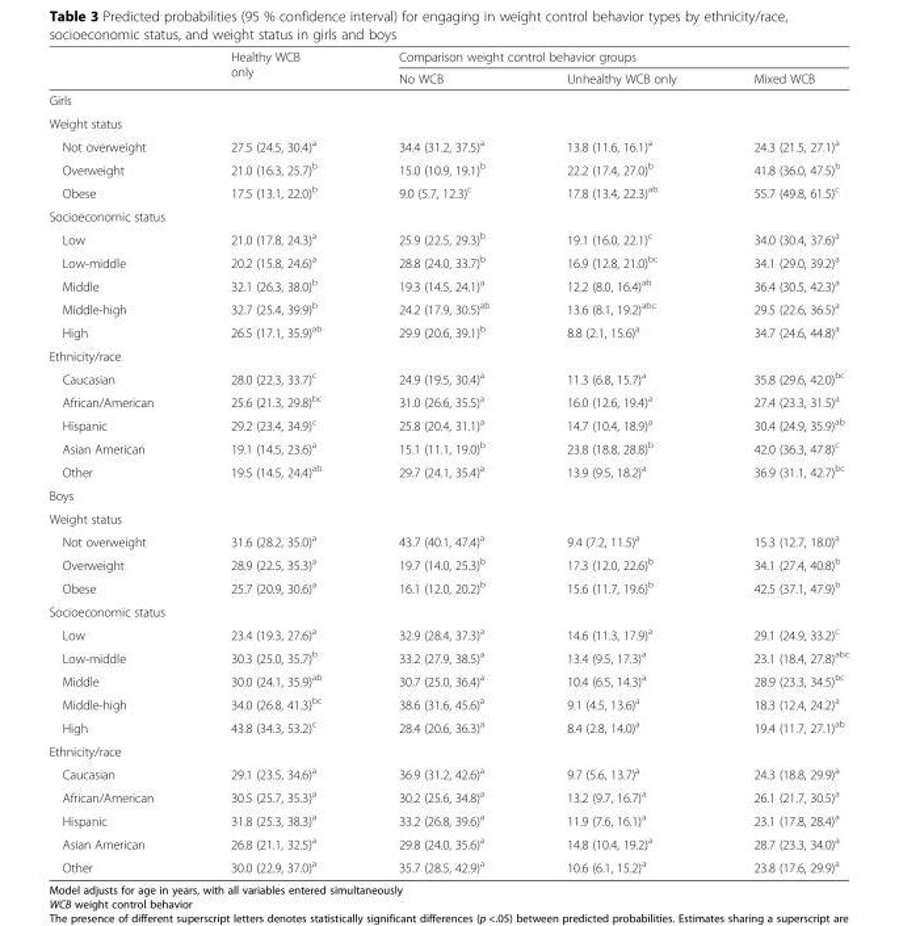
<table><thead><tr><td rowspan="2"></td><td rowspan="2">Healthy WCB only</td><td colspan="3">Comparison weight control behavior groups</td></tr><tr><td>No WCB</td><td>Unhealthy WCB only</td><td>Mixed WCB</td></tr></thead><tbody><tr><td colspan="5">Girls</td></tr><tr><td colspan="5">Weight status</td></tr><tr><td>Not overweight</td><td>27.5 (24.5, 30.4)<sup>a</sup></td><td>34.4 (31.2, 37.5)<sup>a</sup></td><td>13.8 (11.6, 16.1)<sup>a</sup></td><td>24.3 (21.5, 27.1)<sup>a</sup></td></tr><tr><td>Overweight</td><td>21.0 (16.3, 25.7)<sup>b</sup></td><td>15.0 (10.9, 19.1)<sup>b</sup></td><td>22.2 (17.4, 27.0)<sup>b</sup></td><td>41.8 (36.0, 47.5)<sup>b</sup></td></tr><tr><td>Obese</td><td>17.5 (13.1, 22.0)<sup>b</sup></td><td>9.0 (5.7, 12.3)<sup>c</sup></td><td>17.8 (13.4, 22.3)<sup>ab</sup></td><td>55.7 (49.8, 61.5)<sup>c</sup></td></tr><tr><td colspan="5">Socioeconomic status</td></tr><tr><td>Low</td><td>21.0 (17.8, 24.3)<sup>a</sup></td><td>25.9 (22.5, 29.3)<sup>b</sup></td><td>19.1 (16.0, 22.1)<sup>c</sup></td><td>34.0 (30.4, 37.6)<sup>a</sup></td></tr><tr><td>Low-middle</td><td>20.2 (15.8, 24.6)<sup>a</sup></td><td>28.8 (24.0, 33.7)<sup>b</sup></td><td>16.9 (12.8, 21.0)<sup>bc</sup></td><td>34.1 (29.0, 39.2)<sup>a</sup></td></tr><tr><td>Middle</td><td>32.1 (26.3, 38.0)<sup>b</sup></td><td>19.3 (14.5, 24.1)<sup>a</sup></td><td>12.2 (8.0, 16.4)<sup>ab</sup></td><td>36.4 (30.5, 42.3)<sup>a</sup></td></tr><tr><td>Middle-high</td><td>32.7 (25.4, 39.9)<sup>b</sup></td><td>24.2 (17.9, 30.5)<sup>ab</sup></td><td>13.6 (8.1, 19.2)<sup>abc</sup></td><td>29.5 (22.6, 36.5)<sup>a</sup></td></tr><tr><td>High</td><td>26.5 (17.1, 35.9)<sup>ab</sup></td><td>29.9 (20.6, 39.1)<sup>b</sup></td><td>8.8 (2.1, 15.6)<sup>a</sup></td><td>34.7 (24.6, 44.8)<sup>a</sup></td></tr><tr><td colspan="5">Ethnicity/race</td></tr><tr><td>Caucasian</td><td>28.0 (22.3, 33.7)<sup>c</sup></td><td>24.9 (19.5, 30.4)<sup>a</sup></td><td>11.3 (6.8, 15.7)<sup>a</sup></td><td>35.8 (29.6, 42.0)<sup>bc</sup></td></tr><tr><td>African/American</td><td>25.6 (21.3, 29.8)<sup>bc</sup></td><td>31.0 (26.6, 35.5)<sup>a</sup></td><td>16.0 (12.6, 19.4)<sup>a</sup></td><td>27.4 (23.3, 31.5)<sup>a</sup></td></tr><tr><td>Hispanic</td><td>29.2 (23.4, 34.9)<sup>c</sup></td><td>25.8 (20.4, 31.1)<sup>a</sup></td><td>14.7 (10.4, 18.9)<sup>a</sup></td><td>30.4 (24.9, 35.9)<sup>ab</sup></td></tr><tr><td>Asian American</td><td>19.1 (14.5, 23.6)<sup>a</sup></td><td>15.1 (11.1, 19.0)<sup>b</sup></td><td>23.8 (18.8, 28.8)<sup>b</sup></td><td>42.0 (36.3, 47.8)<sup>c</sup></td></tr><tr><td>Other</td><td>19.5 (14.5, 24.4)<sup>ab</sup></td><td>29.7 (24.1, 35.4)<sup>a</sup></td><td>13.9 (9.5, 18.2)<sup>a</sup></td><td>36.9 (31.1, 42.7)<sup>bc</sup></td></tr><tr><td colspan="5">Boys</td></tr><tr><td colspan="5">Weight status</td></tr><tr><td>Not overweight</td><td>31.6 (28.2, 35.0)<sup>a</sup></td><td>43.7 (40.1, 47.4)<sup>a</sup></td><td>9.4 (7.2, 11.5)<sup>a</sup></td><td>15.3 (12.7, 18.0)<sup>a</sup></td></tr><tr><td>Overweight</td><td>28.9 (22.5, 35.3)<sup>a</sup></td><td>19.7 (14.0, 25.3)<sup>b</sup></td><td>17.3 (12.0, 22.6)<sup>b</sup></td><td>34.1 (27.4, 40.8)<sup>b</sup></td></tr><tr><td>Obese</td><td>25.7 (20.9, 30.6)<sup>a</sup></td><td>16.1 (12.0, 20.2)<sup>b</sup></td><td>15.6 (11.7, 19.6)<sup>b</sup></td><td>42.5 (37.1, 47.9)<sup>b</sup></td></tr><tr><td colspan="5">Socioeconomic status</td></tr><tr><td>Low</td><td>23.4 (19.3, 27.6)<sup>a</sup></td><td>32.9 (28.4, 37.3)<sup>a</sup></td><td>14.6 (11.3, 17.9)<sup>a</sup></td><td>29.1 (24.9, 33.2)<sup>c</sup></td></tr><tr><td>Low-middle</td><td>30.3 (25.0, 35.7)<sup>b</sup></td><td>33.2 (27.9, 38.5)<sup>a</sup></td><td>13.4 (9.5, 17.3)<sup>a</sup></td><td>23.1 (18.4, 27.8)<sup>abc</sup></td></tr><tr><td>Middle</td><td>30.0 (24.1, 35.9)<sup>ab</sup></td><td>30.7 (25.0, 36.4)<sup>a</sup></td><td>10.4 (6.5, 14.3)<sup>a</sup></td><td>28.9 (23.3, 34.5)<sup>bc</sup></td></tr><tr><td>Middle-high</td><td>34.0 (26.8, 41.3)<sup>bc</sup></td><td>38.6 (31.6, 45.6)<sup>a</sup></td><td>9.1 (4.5, 13.6)<sup>a</sup></td><td>18.3 (12.4, 24.2)<sup>a</sup></td></tr><tr><td>High</td><td>43.8 (34.3, 53.2)<sup>c</sup></td><td>28.4 (20.6, 36.3)<sup>a</sup></td><td>8.4 (2.8, 14.0)<sup>a</sup></td><td>19.4 (11.7, 27.1)<sup>ab</sup></td></tr><tr><td colspan="5">Ethnicity/race</td></tr><tr><td>Caucasian</td><td>29.1 (23.5, 34.6)<sup>a</sup></td><td>36.9 (31.2, 42.6)<sup>a</sup></td><td>9.7 (5.6, 13.7)<sup>a</sup></td><td>24.3 (18.8, 29.9)<sup>a</sup></td></tr><tr><td>African/American</td><td>30.5 (25.7, 35.3)<sup>a</sup></td><td>30.2 (25.6, 34.8)<sup>a</sup></td><td>13.2 (9.7, 16.7)<sup>a</sup></td><td>26.1 (21.7, 30.5)<sup>a</sup></td></tr><tr><td>Hispanic</td><td>31.8 (25.3, 38.3)<sup>a</sup></td><td>33.2 (26.8, 39.6)<sup>a</sup></td><td>11.9 (7.6, 16.1)<sup>a</sup></td><td>23.1 (17.8, 28.4)<sup>a</sup></td></tr><tr><td>Asian American</td><td>26.8 (21.1, 32.5)<sup>a</sup></td><td>29.8 (24.0, 35.6)<sup>a</sup></td><td>14.8 (10.4, 19.2)<sup>a</sup></td><td>28.7 (23.3, 34.0)<sup>a</sup></td></tr><tr><td>Other</td><td>30.0 (22.9, 37.0)<sup>a</sup></td><td>35.7 (28.5, 42.9)<sup>a</sup></td><td>10.6 (6.1, 15.2)<sup>a</sup></td><td>23.8 (17.6, 29.9)<sup>a</sup></td></tr></tbody></table>